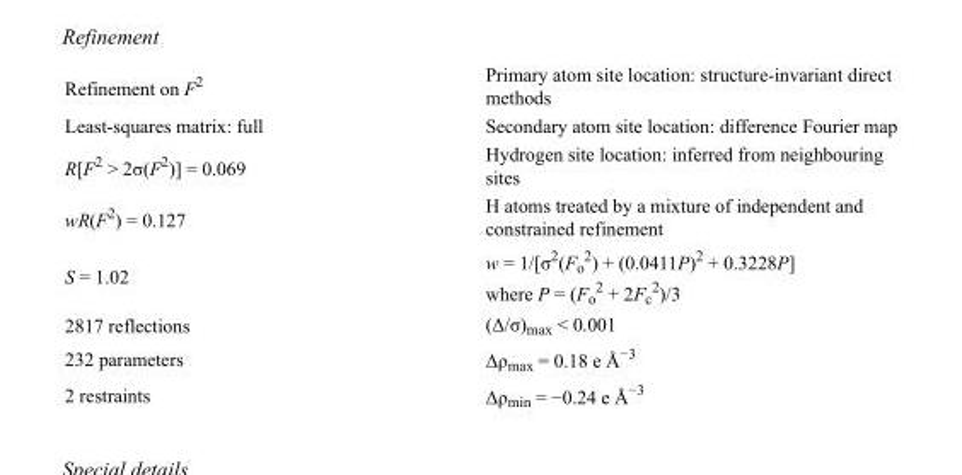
<table><tbody><tr><td>Refinement on F<sup>2</sup></td><td>Primary atom site location: structure-invariant direct methods</td></tr><tr><td>Least-squares matrix: full</td><td>Secondary atom site location: difference Fourier map</td></tr><tr><td>R[F<sup>2</sup> &gt; 2σ(F<sup>2</sup>)] = 0.069</td><td>Hydrogen site location: inferred from neighbouring sites</td></tr><tr><td>wR(F<sup>2</sup>) = 0.127</td><td>H atoms treated by a mixture of independent and constrained refinement</td></tr><tr><td>S = 1.02</td><td>w = 1/[σ<sup>2</sup>(F<sub>o</sub> <sup>2</sup>) + (0.0411P)<sup>2</sup> + 0.3228P] where P = (F<sub>o</sub> <sup>2</sup> + 2F<sub>c</sub> <sup>2</sup>)/3</td></tr><tr><td>2817 reflections</td><td>(Δ/σ)<sub>max</sub> &lt; 0.001</td></tr><tr><td>232 parameters</td><td>Δρ<sub>max</sub> = 0.18 e Å<sup>−3</sup></td></tr><tr><td>2 restraints</td><td>Δρ<sub>min</sub> = −0.24 e Å<sup>−3</sup></td></tr></tbody></table>